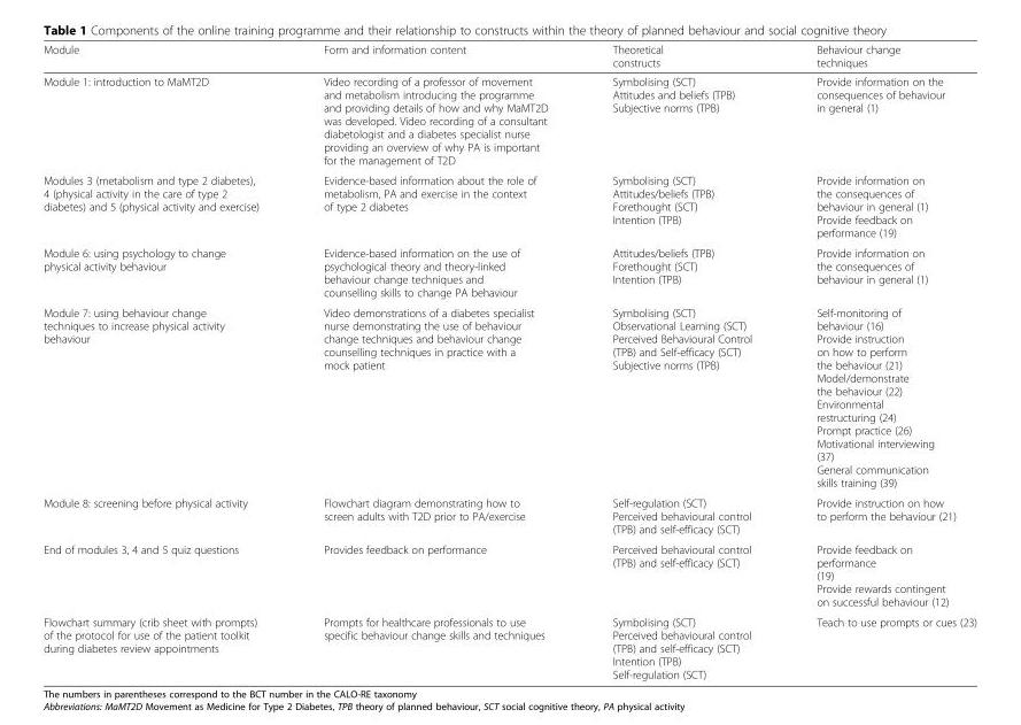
<table><thead><tr><td>Module</td><td>Form and information content</td><td>Theoretical constructs</td><td>Behaviour change techniques</td></tr></thead><tbody><tr><td>Module 1: introduction to MaMT2D</td><td>Video recording of a professor of movement and metabolism introducing the programme and providing details of how and why MaMT2D was developed. Video recording of a consultant diabetologist and a diabetes specialist nurse providing an overview of why PA is important for the management of T2D</td><td>Symbolising (SCT) Attitudes and beliefs (TPB) Subjective norms (TPB)</td><td>Provide information on the consequences of behaviour in general (1)</td></tr><tr><td>Modules 3 (metabolism and type 2 diabetes), 4 (physical activity in the care of type 2 diabetes) and 5 (physical activity and exercise)</td><td>Evidence-based information about the role of metabolism, PA and exercise in the context of type 2 diabetes</td><td>Symbolising (SCT) Attitudes/beliefs (TPB) Forethought (SCT) Intention (TPB)</td><td>Provide information on the consequences of behaviour in general (1) Provide feedback on performance (19)</td></tr><tr><td>Module 6: using psychology to change physical activity behaviour</td><td>Evidence-based information on the use of psychological theory and theory-linked behaviour change techniques and counselling skills to change PA behaviour</td><td>Attitudes/beliefs (TPB) Forethought (SCT) Intention (TPB)</td><td>Provide information on the consequences of behaviour in general (1)</td></tr><tr><td>Module 7: using behaviour change techniques to increase physical activity behaviour</td><td>Video demonstrations of a diabetes specialist nurse demonstrating the use of behaviour change techniques and behaviour change counselling techniques in practice with a mock patient</td><td>Symbolising (SCT) Observational Learning (SCT) Perceived Behavioural Control (TPB) and Self-efficacy (SCT) Subjective norms (TPB)</td><td>Self-monitoring of behaviour (16) Provide instruction on how to perform the behaviour (21) Model/demonstrate the behaviour (22) Environmental restructuring (24) Prompt practice (26) Motivational interviewing (37) General communication skills training (39)</td></tr><tr><td>Module 8: screening before physical activity</td><td>Flowchart diagram demonstrating how to screen adults with T2D prior to PA/exercise</td><td>Self-regulation (SCT) Perceived behavioural control (TPB) and self-efficacy (SCT)</td><td>Provide instruction on how to perform the behaviour (21)</td></tr><tr><td>End of modules 3, 4 and 5 quiz questions</td><td>Provides feedback on performance</td><td>Perceived behavioural control (TPB) and self-efficacy (SCT)</td><td>Provide feedback on performance (19) Provide rewards contingent on successful behaviour (12)</td></tr><tr><td>Flowchart summary (crib sheet with prompts) of the protocol for use of the patient toolkit during diabetes review appointments</td><td>Prompts for healthcare professionals to use specific behaviour change skills and techniques</td><td>Symbolising (SCT) Perceived behavioural control (TPB) and self-efficacy (SCT) Intention (TPB) Self-regulation (SCT)</td><td>Teach to use prompts or cues (23)</td></tr></tbody></table>